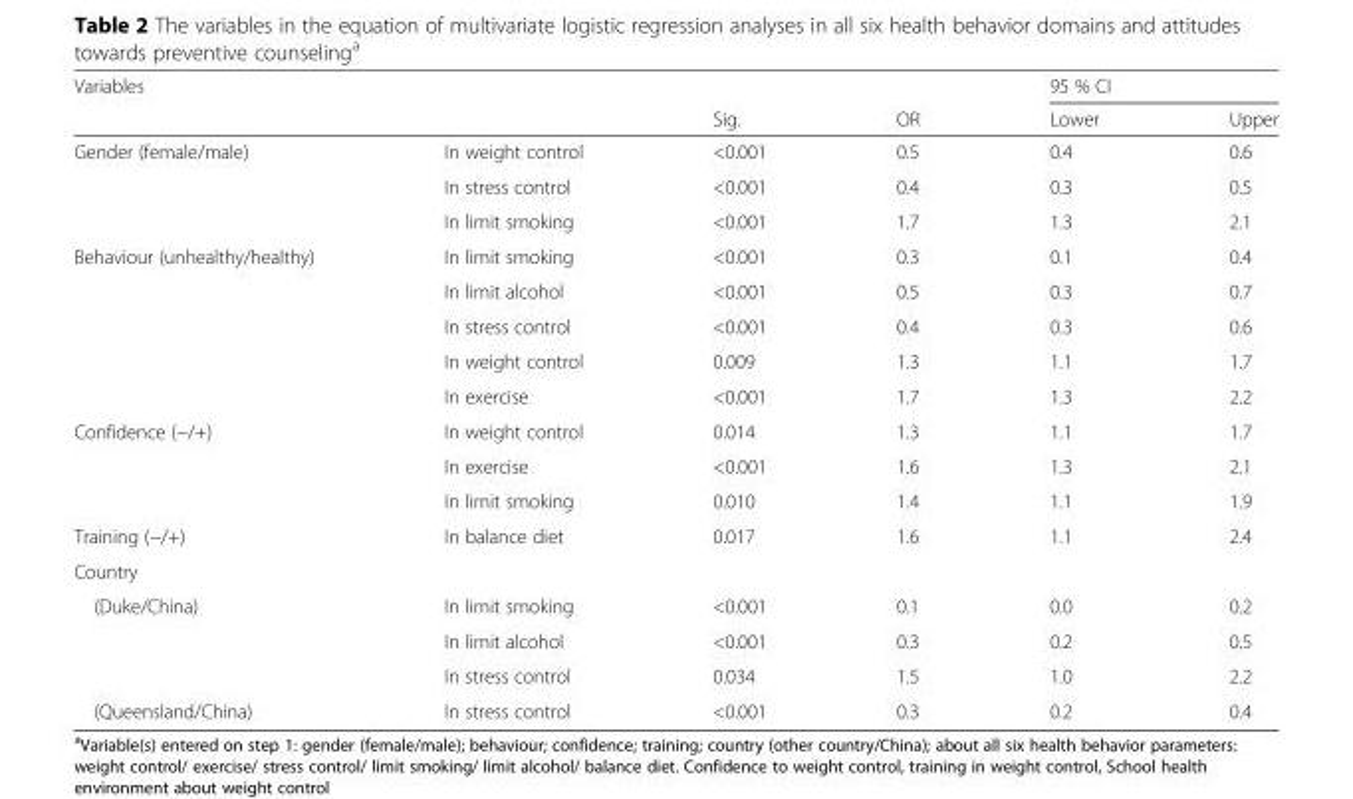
<table><thead><tr><td rowspan="2">Variables</td><td rowspan="2"></td><td rowspan="2">Sig.</td><td rowspan="2">OR</td><td colspan="2">95 % CI</td></tr><tr><td>Lower</td><td>Upper</td></tr></thead><tbody><tr><td rowspan="3">Gender (female/male)</td><td>In weight control</td><td>&lt;0.001</td><td>0.5</td><td>0.4</td><td>0.6</td></tr><tr><td>In stress control</td><td>&lt;0.001</td><td>0.4</td><td>0.3</td><td>0.5</td></tr><tr><td>In limit smoking</td><td>&lt;0.001</td><td>1.7</td><td>1.3</td><td>2.1</td></tr><tr><td rowspan="5">Behaviour (unhealthy/healthy)</td><td>In limit smoking</td><td>&lt;0.001</td><td>0.3</td><td>0.1</td><td>0.4</td></tr><tr><td>In limit alcohol</td><td>&lt;0.001</td><td>0.5</td><td>0.3</td><td>0.7</td></tr><tr><td>In stress control</td><td>&lt;0.001</td><td>0.4</td><td>0.3</td><td>0.6</td></tr><tr><td>In weight control</td><td>0.009</td><td>1.3</td><td>1.1</td><td>1.7</td></tr><tr><td>In exercise</td><td>&lt;0.001</td><td>1.7</td><td>1.3</td><td>2.2</td></tr><tr><td rowspan="3">Confidence (−/+)</td><td>In weight control</td><td>0.014</td><td>1.3</td><td>1.1</td><td>1.7</td></tr><tr><td>In exercise</td><td>&lt;0.001</td><td>1.6</td><td>1.3</td><td>2.1</td></tr><tr><td>In limit smoking</td><td>0.010</td><td>1.4</td><td>1.1</td><td>1.9</td></tr><tr><td>Training (−/+)</td><td>In balance diet</td><td>0.017</td><td>1.6</td><td>1.1</td><td>2.4</td></tr><tr><td colspan="6">Country</td></tr><tr><td rowspan="3">(Duke/China)</td><td>In limit smoking</td><td>&lt;0.001</td><td>0.1</td><td>0.0</td><td>0.2</td></tr><tr><td>In limit alcohol</td><td>&lt;0.001</td><td>0.3</td><td>0.2</td><td>0.5</td></tr><tr><td>In stress control</td><td>0.034</td><td>1.5</td><td>1.0</td><td>2.2</td></tr><tr><td>(Queensland/China)</td><td>In stress control</td><td>&lt;0.001</td><td>0.3</td><td>0.2</td><td>0.4</td></tr></tbody></table>